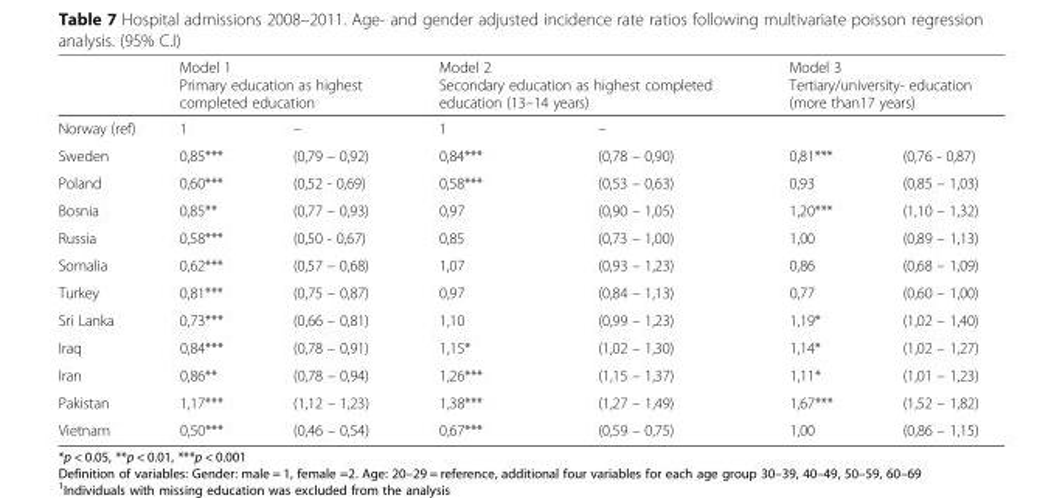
<table><thead><tr><td rowspan="2">Norway (ref)</td><td colspan="2">Model 1 Primary education as highest completed education</td><td colspan="2">Model 2 Secondary education as highest completed education (13–14 years)</td><td colspan="2">Model 3 Tertiary/university- education (more than17 years)</td></tr><tr><td>1</td><td>–</td><td>1</td><td>–</td><td></td><td></td></tr></thead><tbody><tr><td>Sweden</td><td>0,85***</td><td>(0,79 – 0,92)</td><td>0,84***</td><td>(0,78 – 0,90)</td><td>0,81***</td><td>(0,76 - 0,87)</td></tr><tr><td>Poland</td><td>0,60***</td><td>(0,52 - 0,69)</td><td>0,58***</td><td>(0,53 – 0,63)</td><td>0,93</td><td>(0,85 – 1,03)</td></tr><tr><td>Bosnia</td><td>0,85**</td><td>(0,77 – 0,93)</td><td>0,97</td><td>(0,90 – 1,05)</td><td>1,20***</td><td>(1,10 – 1,32)</td></tr><tr><td>Russia</td><td>0,58***</td><td>(0,50 - 0,67)</td><td>0,85</td><td>(0,73 – 1,00)</td><td>1,00</td><td>(0,89 – 1,13)</td></tr><tr><td>Somalia</td><td>0,62***</td><td>(0,57 – 0,68)</td><td>1,07</td><td>(0,93 – 1,23)</td><td>0,86</td><td>(0,68 – 1,09)</td></tr><tr><td>Turkey</td><td>0,81***</td><td>(0,75 – 0,87)</td><td>0,97</td><td>(0,84 – 1,13)</td><td>0,77</td><td>(0,60 – 1,00)</td></tr><tr><td>Sri Lanka</td><td>0,73***</td><td>(0,66 – 0,81)</td><td>1,10</td><td>(0,99 – 1,23)</td><td>1,19*</td><td>(1,02 – 1,40)</td></tr><tr><td>Iraq</td><td>0,84***</td><td>(0,78 – 0,91)</td><td>1,15*</td><td>(1,02 – 1,30)</td><td>1,14*</td><td>(1,02 – 1,27)</td></tr><tr><td>Iran</td><td>0,86**</td><td>(0,78 – 0,94)</td><td>1,26***</td><td>(1,15 – 1,37)</td><td>1,11*</td><td>(1,01 – 1,23)</td></tr><tr><td>Pakistan</td><td>1,17***</td><td>(1,12 – 1,23)</td><td>1,38***</td><td>(1,27 – 1,49)</td><td>1,67***</td><td>(1,52 – 1,82)</td></tr><tr><td>Vietnam</td><td>0,50***</td><td>(0,46 – 0,54)</td><td>0,67***</td><td>(0,59 – 0,75)</td><td>1,00</td><td>(0,86 – 1,15)</td></tr></tbody></table>